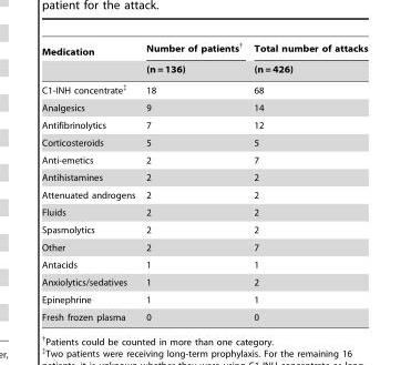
<table><thead><tr><td rowspan="2">Medication</td><td rowspan="2">Number of patients† (n = 136)</td><td rowspan="2">Total number of attacks (n = 426)</td></tr><tr></tr></thead><tbody><tr><td>C1-INH concentrate‡</td><td>18</td><td>68</td></tr><tr><td>Analgesics</td><td>9</td><td>14</td></tr><tr><td>Antifibrinolytics</td><td>7</td><td>12</td></tr><tr><td>Corticosteroids</td><td>5</td><td>5</td></tr><tr><td>Anti-emetics</td><td>2</td><td>7</td></tr><tr><td>Antihistamines</td><td>2</td><td>2</td></tr><tr><td>Attenuated androgens</td><td>2</td><td>2</td></tr><tr><td>Fluids</td><td>2</td><td>2</td></tr><tr><td>Spasmolytics</td><td>2</td><td>2</td></tr><tr><td>Other</td><td>2</td><td>7</td></tr><tr><td>Antacids</td><td>1</td><td>1</td></tr><tr><td>Anxiolytics/sedatives</td><td>1</td><td>2</td></tr><tr><td>Epinephrine</td><td>1</td><td>1</td></tr><tr><td>Fresh frozen plasma</td><td>0</td><td>0</td></tr></tbody></table>